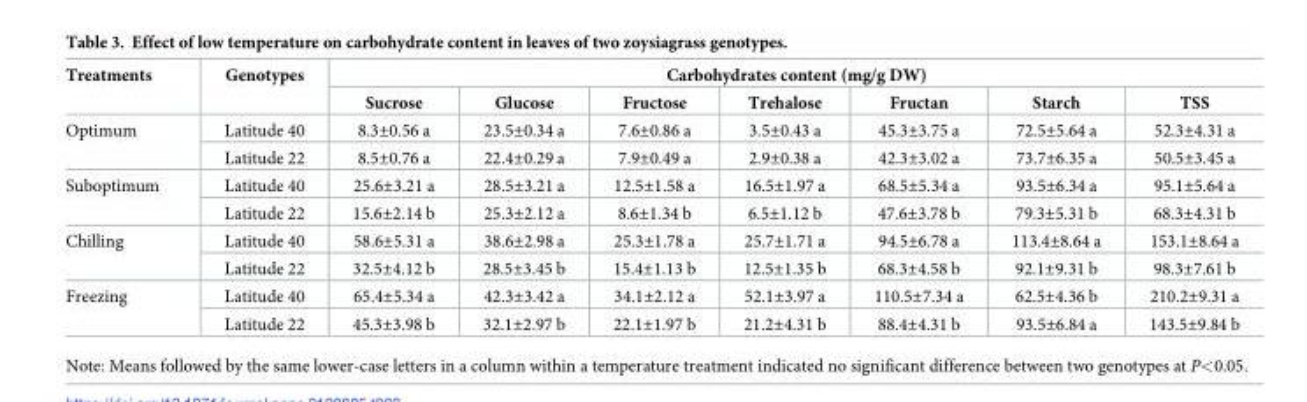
<table><thead><tr><td rowspan="2">Treatments</td><td rowspan="2">Genotypes</td><td colspan="7">Carbohydrates content (mg/g DW)</td></tr><tr><td>Sucrose</td><td>Glucose</td><td>Fructose</td><td>Trehalose</td><td>Fructan</td><td>Starch</td><td>TSS</td></tr></thead><tbody><tr><td rowspan="2">Optimum</td><td>Latitude 40</td><td>8.3±0.56 a</td><td>23.5±0.34 a</td><td>7.6±0.86 a</td><td>3.5±0.43 a</td><td>45.3±3.75 a</td><td>72.5±5.64 a</td><td>52.3±4.31 a</td></tr><tr><td>Latitude 22</td><td>8.5±0.76 a</td><td>22.4±0.29 a</td><td>7.9±0.49 a</td><td>2.9±0.38 a</td><td>42.3±3.02 a</td><td>73.7±6.35 a</td><td>50.5±3.45 a</td></tr><tr><td rowspan="2">Suboptimum</td><td>Latitude 40</td><td>25.6±3.21 a</td><td>28.5±3.21 a</td><td>12.5±1.58 a</td><td>16.5±1.97 a</td><td>68.5±5.34 a</td><td>93.5±6.34 a</td><td>95.1±5.64 a</td></tr><tr><td>Latitude 22</td><td>15.6±2.14 b</td><td>25.3±2.12 a</td><td>8.6±1.34 b</td><td>6.5±1.12 b</td><td>47.6±3.78 b</td><td>79.3±5.31 b</td><td>68.3±4.31 b</td></tr><tr><td rowspan="2">Chilling</td><td>Latitude 40</td><td>58.6±5.31 a</td><td>38.6±2.98 a</td><td>25.3±1.78 a</td><td>25.7±1.71 a</td><td>94.5±6.78 a</td><td>113.4±8.64 a</td><td>153.1±8.64 a</td></tr><tr><td>Latitude 22</td><td>32.5±4.12 b</td><td>28.5±3.45 b</td><td>15.4±1.13 b</td><td>12.5±1.35 b</td><td>68.3±4.58 b</td><td>92.1±9.31 b</td><td>98.3±7.61 b</td></tr><tr><td rowspan="2">Freezing</td><td>Latitude 40</td><td>65.4±5.34 a</td><td>42.3±3.42 a</td><td>34.1±2.12 a</td><td>52.1±3.97 a</td><td>110.5±7.34 a</td><td>62.5±4.36 b</td><td>210.2±9.31 a</td></tr><tr><td>Latitude 22</td><td>45.3±3.98 b</td><td>32.1±2.97 b</td><td>22.1±1.97 b</td><td>21.2±4.31 b</td><td>88.4±4.31 b</td><td>93.5±6.84 a</td><td>143.5±9.84 b</td></tr></tbody></table>